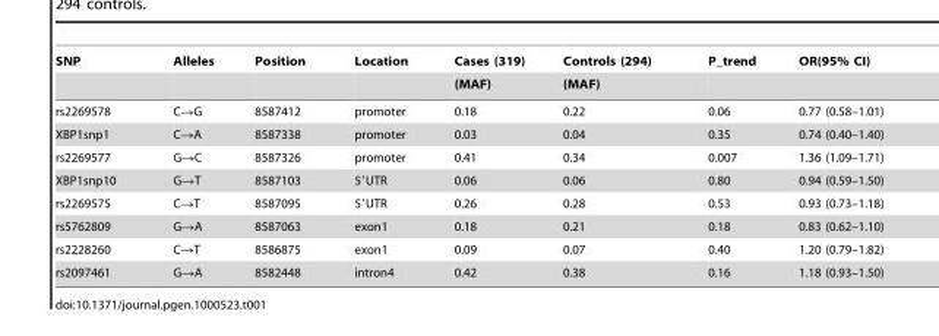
<table><thead><tr><td rowspan="2">SNP</td><td rowspan="2">Alleles</td><td rowspan="2">Position</td><td rowspan="2">Location</td><td rowspan="2">Cases (319) (MAF)</td><td rowspan="2">Controls (294) (MAF)</td><td rowspan="2">P_trend</td><td rowspan="2">OR(95% CI)</td></tr><tr></tr></thead><tbody><tr><td>rs2269578</td><td>C→G</td><td>8587412</td><td>promoter</td><td>0.18</td><td>0.22</td><td>0.06</td><td>0.77 (0.58–1.01)</td></tr><tr><td>XBP1snp1</td><td>C→A</td><td>8587338</td><td>promoter</td><td>0.03</td><td>0.04</td><td>0.35</td><td>0.74 (0.40–1.40)</td></tr><tr><td>rs2269577</td><td>G→C</td><td>8587326</td><td>promoter</td><td>0.41</td><td>0.34</td><td>0.007</td><td>1.36 (1.09–1.71)</td></tr><tr><td>XBP1snp10</td><td>G→T</td><td>8587103</td><td>5′UTR</td><td>0.06</td><td>0.06</td><td>0.80</td><td>0.94 (0.59–1.50)</td></tr><tr><td>rs2269575</td><td>C→T</td><td>8587095</td><td>5′UTR</td><td>0.26</td><td>0.28</td><td>0.53</td><td>0.93 (0.73–1.18)</td></tr><tr><td>rs5762809</td><td>G→A</td><td>8587063</td><td>exon1</td><td>0.18</td><td>0.21</td><td>0.18</td><td>0.83 (0.62–1.10)</td></tr><tr><td>rs2228260</td><td>C→T</td><td>8586875</td><td>exon1</td><td>0.09</td><td>0.07</td><td>0.40</td><td>1.20 (0.79–1.82)</td></tr><tr><td>rs2097461</td><td>G→A</td><td>8582448</td><td>intron4</td><td>0.42</td><td>0.38</td><td>0.16</td><td>1.18 (0.93–1.50)</td></tr></tbody></table>